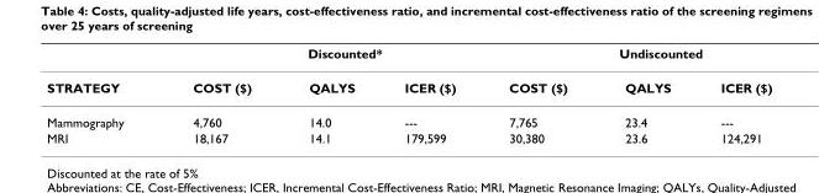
<table><thead><tr><td rowspan="2">STRATEGY</td><td colspan="3">Discounted*</td><td colspan="3">Undiscounted</td></tr><tr><td>COST ($)</td><td>QALYS</td><td>ICER ($)</td><td>COST ($)</td><td>QALYS</td><td>ICER ($)</td></tr></thead><tbody><tr><td>Mammography</td><td>4,760</td><td>14.0</td><td>---</td><td>7,765</td><td>23.4</td><td>---</td></tr><tr><td>MRI</td><td>18,167</td><td>14.1</td><td>179,599</td><td>30,380</td><td>23.6</td><td>124,291</td></tr></tbody></table>